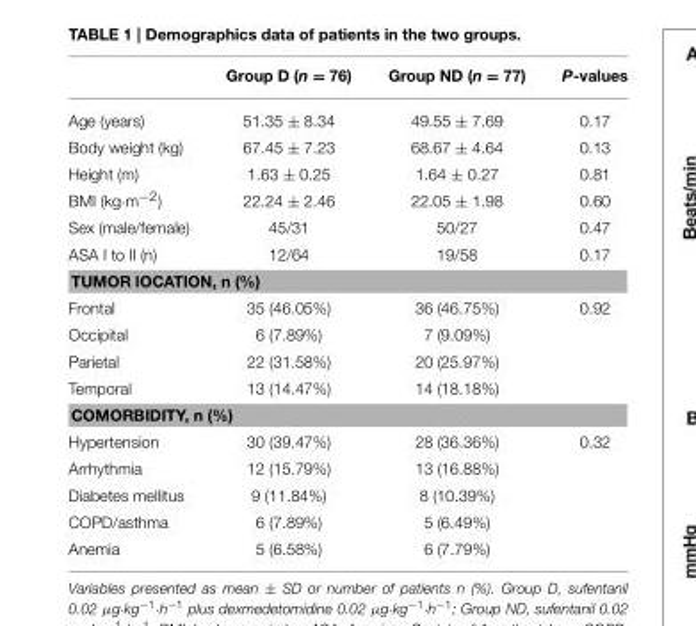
<table><thead><tr><td></td><td>Group D (n = 76)</td><td>Group ND (n = 77)</td><td>P-values</td></tr></thead><tbody><tr><td>Age (years)</td><td>51.35 ± 8.34</td><td>49.55 ± 7.69</td><td>0.17</td></tr><tr><td>Body weight (kg)</td><td>67.45 ± 7.23</td><td>68.67 ± 4.64</td><td>0.13</td></tr><tr><td>Height (m)</td><td>1.63 ± 0.25</td><td>1.64 ± 0.27</td><td>0.81</td></tr><tr><td>BMI (kg·m<sup>−2</sup>)</td><td>22.24 ± 2.46</td><td>22.05 ± 1.98</td><td>0.60</td></tr><tr><td>Sex (male/female)</td><td>45/31</td><td>50/27</td><td>0.47</td></tr><tr><td>ASA I to II (n)</td><td>12/64</td><td>19/58</td><td>0.17</td></tr><tr><td colspan="4">TUMOR lOCATION, n (%)</td></tr><tr><td>Frontal</td><td>35 (46.05%)</td><td>36 (46.75%)</td><td>0.92</td></tr><tr><td>Occipital</td><td>6 (7.89%)</td><td>7 (9.09%)</td><td></td></tr><tr><td>Parietal</td><td>22 (31.58%)</td><td>20 (25.97%)</td><td></td></tr><tr><td>Temporal</td><td>13 (14.47%)</td><td>14 (18.18%)</td><td></td></tr><tr><td colspan="4">COMORBIDITY, n (%)</td></tr><tr><td>Hypertension</td><td>30 (39.47%)</td><td>28 (36.36%)</td><td>0.32</td></tr><tr><td>Arrhythmia</td><td>12 (15.79%)</td><td>13 (16.88%)</td><td></td></tr><tr><td>Diabetes mellitus</td><td>9 (11.84%)</td><td>8 (10.39%)</td><td></td></tr><tr><td>COPD/asthma</td><td>6 (7.89%)</td><td>5 (6.49%)</td><td></td></tr><tr><td>Anemia</td><td>5 (6.58%)</td><td>6 (7.79%)</td><td></td></tr></tbody></table>